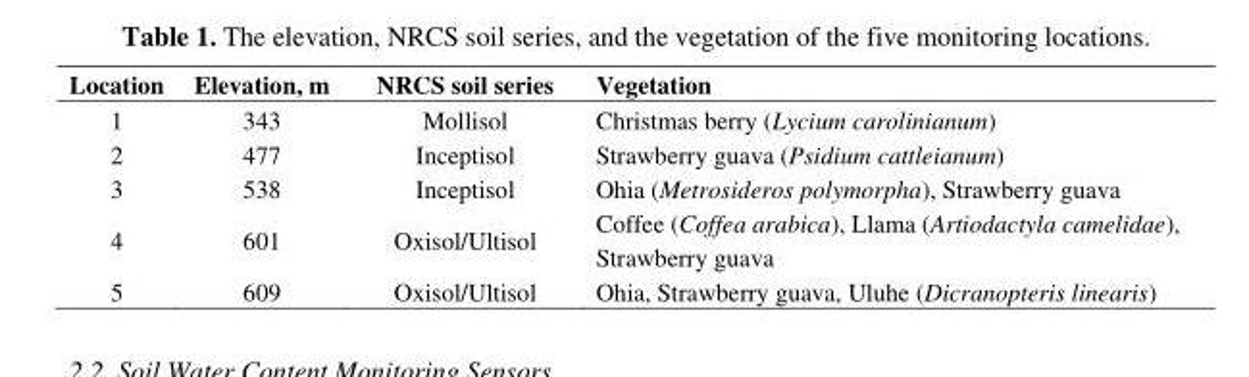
<table><thead><tr><td>Location</td><td>Elevation, m</td><td>NRCS soil series</td><td>Vegetation</td></tr></thead><tbody><tr><td>1</td><td>343</td><td>Mollisol</td><td>Christmas berry (Lycium carolinianum)</td></tr><tr><td>2</td><td>477</td><td>Inceptisol</td><td>Strawberry guava (Psidium cattleianum)</td></tr><tr><td>3</td><td>538</td><td>Inceptisol</td><td>Ohia (Metrosideros polymorpha), Strawberry guava</td></tr><tr><td>4</td><td>601</td><td>Oxisol/Ultisol</td><td>Coffee (Coffea arabica), Llama (Artiodactyla camelidae), Strawberry guava</td></tr><tr><td>5</td><td>609</td><td>Oxisol/Ultisol</td><td>Ohia, Strawberry guava, Uluhe (Dicranopteris linearis)</td></tr></tbody></table>